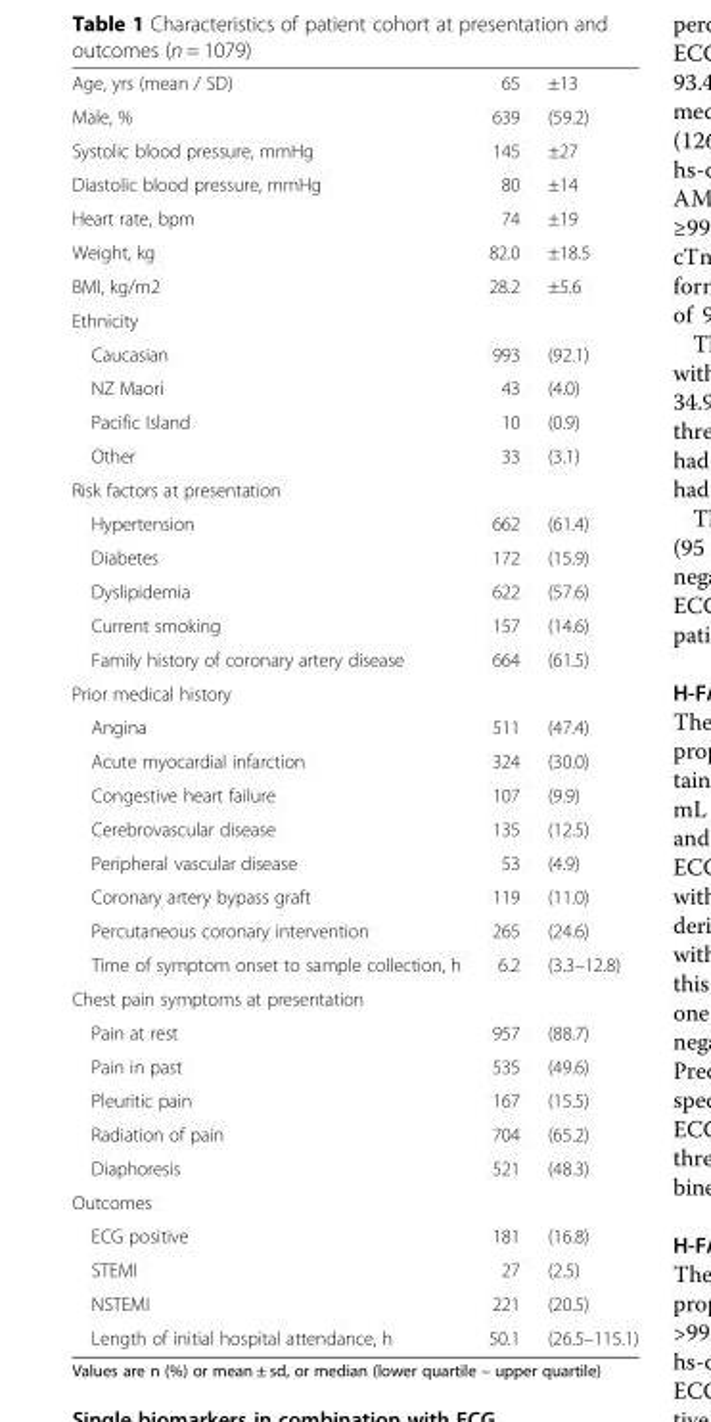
<table><tbody><tr><td>Age, yrs (mean / SD)</td><td>65</td><td>±13</td></tr><tr><td>Male, %</td><td>639</td><td>(59.2)</td></tr><tr><td>Systolic blood pressure, mmHg</td><td>145</td><td>±27</td></tr><tr><td>Diastolic blood pressure, mmHg</td><td>80</td><td>±14</td></tr><tr><td>Heart rate, bpm</td><td>74</td><td>±19</td></tr><tr><td>Weight, kg</td><td>82.0</td><td>±18.5</td></tr><tr><td>BMI, kg/m2</td><td>28.2</td><td>±5.6</td></tr><tr><td colspan="3">Ethnicity</td></tr><tr><td>Caucasian</td><td>993</td><td>(92.1)</td></tr><tr><td>NZ Maori</td><td>43</td><td>(4.0)</td></tr><tr><td>Pacific Island</td><td>10</td><td>(0.9)</td></tr><tr><td>Other</td><td>33</td><td>(3.1)</td></tr><tr><td colspan="3">Risk factors at presentation</td></tr><tr><td>Hypertension</td><td>662</td><td>(61.4)</td></tr><tr><td>Diabetes</td><td>172</td><td>(15.9)</td></tr><tr><td>Dyslipidemia</td><td>622</td><td>(57.6)</td></tr><tr><td>Current smoking</td><td>157</td><td>(14.6)</td></tr><tr><td>Family history of coronary artery disease</td><td>664</td><td>(61.5)</td></tr><tr><td colspan="3">Prior medical history</td></tr><tr><td>Angina</td><td>511</td><td>(47.4)</td></tr><tr><td>Acute myocardial infarction</td><td>324</td><td>(30.0)</td></tr><tr><td>Congestive heart failure</td><td>107</td><td>(9.9)</td></tr><tr><td>Cerebrovascular disease</td><td>135</td><td>(12.5)</td></tr><tr><td>Peripheral vascular disease</td><td>53</td><td>(4.9)</td></tr><tr><td>Coronary artery bypass graft</td><td>119</td><td>(11.0)</td></tr><tr><td>Percutaneous coronary intervention</td><td>265</td><td>(24.6)</td></tr><tr><td>Time of symptom onset to sample collection, h</td><td>6.2</td><td>(3.3–12.8)</td></tr><tr><td colspan="3">Chest pain symptoms at presentation</td></tr><tr><td>Pain at rest</td><td>957</td><td>(88.7)</td></tr><tr><td>Pain in past</td><td>535</td><td>(49.6)</td></tr><tr><td>Pleuritic pain</td><td>167</td><td>(15.5)</td></tr><tr><td>Radiation of pain</td><td>704</td><td>(65.2)</td></tr><tr><td>Diaphoresis</td><td>521</td><td>(48.3)</td></tr><tr><td colspan="3">Outcomes</td></tr><tr><td>ECG positive</td><td>181</td><td>(16.8)</td></tr><tr><td>STEMI</td><td>27</td><td>(2.5)</td></tr><tr><td>NSTEMI</td><td>221</td><td>(20.5)</td></tr><tr><td>Length of initial hospital attendance, h</td><td>50.1</td><td>(26.5–115.1)</td></tr></tbody></table>